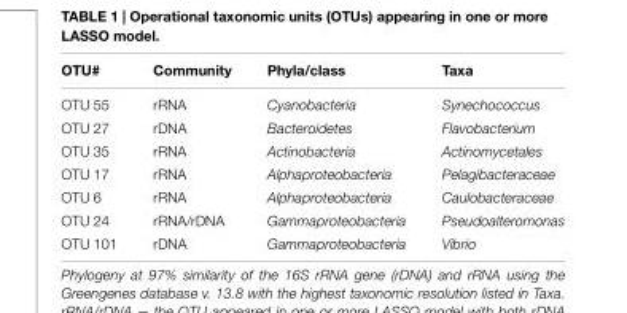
<table><thead><tr><td>OTU#</td><td>Community</td><td>Phyla/class</td><td>Taxa</td></tr></thead><tbody><tr><td>OTU 55</td><td>rRNA</td><td>Cyanobacteria</td><td>Synechococcus</td></tr><tr><td>OTU 27</td><td>rDNA</td><td>Bacteroidetes</td><td>Flavobacterium</td></tr><tr><td>OTU 35</td><td>rRNA</td><td>Actinobacteria</td><td>Actinomycetales</td></tr><tr><td>OTU 17</td><td>rRNA</td><td>Alphaproteobacteria</td><td>Pelagibacteraceae</td></tr><tr><td>OTU 6</td><td>rRNA</td><td>Alphaproteobacteria</td><td>Caulobacteraceae</td></tr><tr><td>OTU 24</td><td>rRNA/rDNA</td><td>Gammaproteobacteria</td><td>Pseudoalteromonas</td></tr><tr><td>OTU 101</td><td>rDNA</td><td>Gammaproteobacteria</td><td>Vibrio</td></tr></tbody></table>